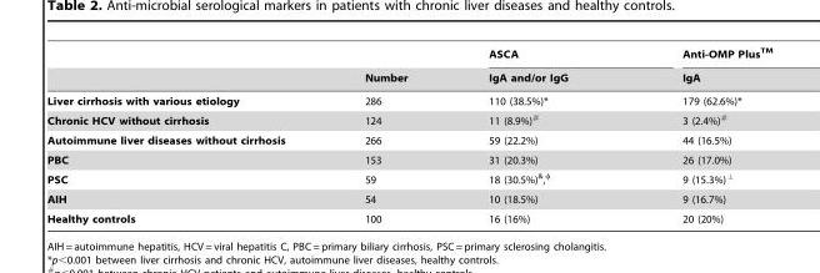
<table><thead><tr><td rowspan="2"></td><td rowspan="2">Number</td><td rowspan="2">ASCA IgA and/or IgG</td><td rowspan="2">Anti-OMP PlusTM IgA</td></tr><tr></tr></thead><tbody><tr><td>Liver cirrhosis with various etiology</td><td>286</td><td>110 (38.5%)*</td><td>179 (62.6%)*</td></tr><tr><td>Chronic HCV without cirrhosis</td><td>124</td><td>11 (8.9%)#</td><td>3 (2.4%)#</td></tr><tr><td>Autoimmune liver diseases without cirrhosis</td><td>266</td><td>59 (22.2%)</td><td>44 (16.5%)</td></tr><tr><td>PBC</td><td>153</td><td>31 (20.3%)</td><td>26 (17.0%)</td></tr><tr><td>PSC</td><td>59</td><td>18 (30.5%)&amp;,φ</td><td>9 (15.3%)⊥</td></tr><tr><td>AIH</td><td>54</td><td>10 (18.5%)</td><td>9 (16.7%)</td></tr><tr><td>Healthy controls</td><td>100</td><td>16 (16%)</td><td>20 (20%)</td></tr></tbody></table>